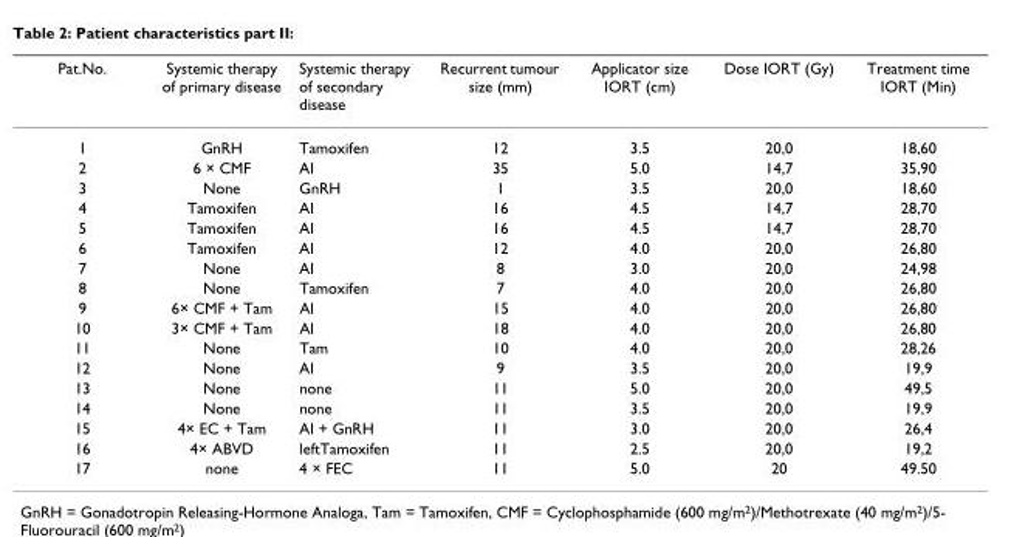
<table><thead><tr><td>Pat.No.</td><td>Systemic therapy of primary disease</td><td>Systemic therapy of secondary disease</td><td>Recurrent tumour size (mm)</td><td>Applicator size IORT (cm)</td><td>Dose IORT (Gy)</td><td>Treatment time IORT (Min)</td></tr></thead><tbody><tr><td>1</td><td>GnRH</td><td>Tamoxifen</td><td>12</td><td>3.5</td><td>20,0</td><td>18,60</td></tr><tr><td>2</td><td>6 × CMF</td><td>AI</td><td>35</td><td>5.0</td><td>14,7</td><td>35,90</td></tr><tr><td>3</td><td>None</td><td>GnRH</td><td>1</td><td>3.5</td><td>20,0</td><td>18,60</td></tr><tr><td>4</td><td>Tamoxifen</td><td>AI</td><td>16</td><td>4.5</td><td>14,7</td><td>28,70</td></tr><tr><td>5</td><td>Tamoxifen</td><td>AI</td><td>16</td><td>4.5</td><td>14,7</td><td>28,70</td></tr><tr><td>6</td><td>Tamoxifen</td><td>AI</td><td>12</td><td>4.0</td><td>20,0</td><td>26,80</td></tr><tr><td>7</td><td>None</td><td>AI</td><td>8</td><td>3.0</td><td>20,0</td><td>24,98</td></tr><tr><td>8</td><td>None</td><td>Tamoxifen</td><td>7</td><td>4.0</td><td>20,0</td><td>26,80</td></tr><tr><td>9</td><td>6× CMF + Tam</td><td>AI</td><td>15</td><td>4.0</td><td>20,0</td><td>26,80</td></tr><tr><td>10</td><td>3× CMF + Tam</td><td>AI</td><td>18</td><td>4.0</td><td>20,0</td><td>26,80</td></tr><tr><td>11</td><td>None</td><td>Tam</td><td>10</td><td>4.0</td><td>20,0</td><td>28,26</td></tr><tr><td>12</td><td>None</td><td>AI</td><td>9</td><td>3.5</td><td>20,0</td><td>19,9</td></tr><tr><td>13</td><td>None</td><td>none</td><td>11</td><td>5.0</td><td>20,0</td><td>49,5</td></tr><tr><td>14</td><td>None</td><td>none</td><td>11</td><td>3.5</td><td>20,0</td><td>19,9</td></tr><tr><td>15</td><td>4× EC + Tam</td><td>AI + GnRH</td><td>11</td><td>3.0</td><td>20,0</td><td>26,4</td></tr><tr><td>16</td><td>4× ABVD</td><td>leftTamoxifen</td><td>11</td><td>2.5</td><td>20,0</td><td>19,2</td></tr><tr><td>17</td><td>none</td><td>4 × FEC</td><td>11</td><td>5.0</td><td>20</td><td>49.50</td></tr></tbody></table>